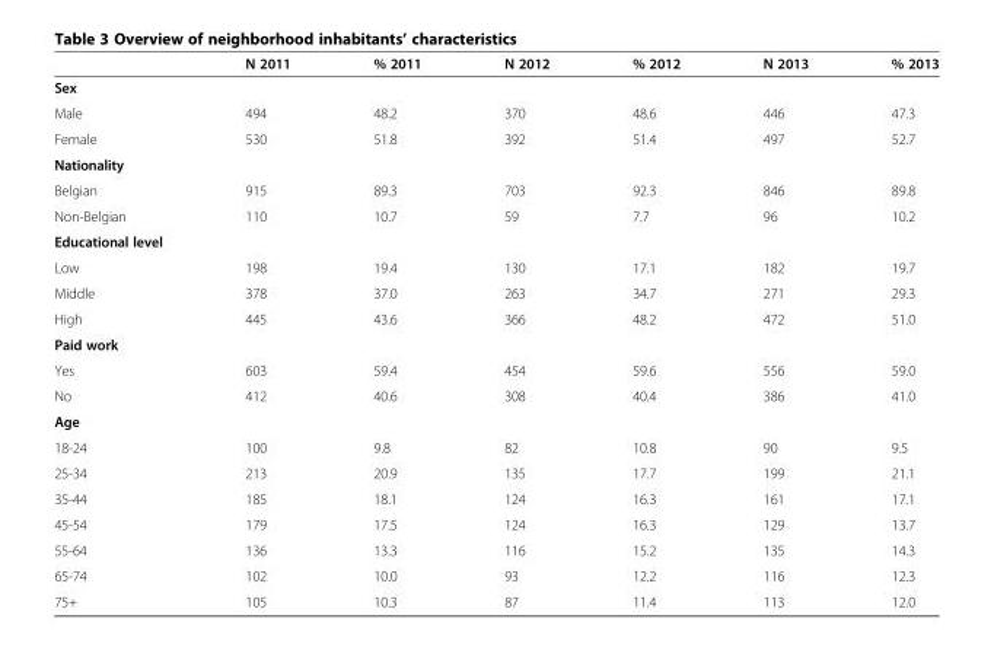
<table><thead><tr><td></td><td>N 2011</td><td>% 2011</td><td>N 2012</td><td>% 2012</td><td>N 2013</td><td>% 2013</td></tr></thead><tbody><tr><td colspan="7">Sex</td></tr><tr><td>Male</td><td>494</td><td>48.2</td><td>370</td><td>48.6</td><td>446</td><td>47.3</td></tr><tr><td>Female</td><td>530</td><td>51.8</td><td>392</td><td>51.4</td><td>497</td><td>52.7</td></tr><tr><td colspan="7">Nationality</td></tr><tr><td>Belgian</td><td>915</td><td>89.3</td><td>703</td><td>92.3</td><td>846</td><td>89.8</td></tr><tr><td>Non-Belgian</td><td>110</td><td>10.7</td><td>59</td><td>7.7</td><td>96</td><td>10.2</td></tr><tr><td colspan="7">Educational level</td></tr><tr><td>Low</td><td>198</td><td>19.4</td><td>130</td><td>17.1</td><td>182</td><td>19.7</td></tr><tr><td>Middle</td><td>378</td><td>37.0</td><td>263</td><td>34.7</td><td>271</td><td>29.3</td></tr><tr><td>High</td><td>445</td><td>43.6</td><td>366</td><td>48.2</td><td>472</td><td>51.0</td></tr><tr><td colspan="7">Paid work</td></tr><tr><td>Yes</td><td>603</td><td>59.4</td><td>454</td><td>59.6</td><td>556</td><td>59.0</td></tr><tr><td>No</td><td>412</td><td>40.6</td><td>308</td><td>40.4</td><td>386</td><td>41.0</td></tr><tr><td colspan="7">Age</td></tr><tr><td>18-24</td><td>100</td><td>9.8</td><td>82</td><td>10.8</td><td>90</td><td>9.5</td></tr><tr><td>25-34</td><td>213</td><td>20.9</td><td>135</td><td>17.7</td><td>199</td><td>21.1</td></tr><tr><td>35-44</td><td>185</td><td>18.1</td><td>124</td><td>16.3</td><td>161</td><td>17.1</td></tr><tr><td>45-54</td><td>179</td><td>17.5</td><td>124</td><td>16.3</td><td>129</td><td>13.7</td></tr><tr><td>55-64</td><td>136</td><td>13.3</td><td>116</td><td>15.2</td><td>135</td><td>14.3</td></tr><tr><td>65-74</td><td>102</td><td>10.0</td><td>93</td><td>12.2</td><td>116</td><td>12.3</td></tr><tr><td>75+</td><td>105</td><td>10.3</td><td>87</td><td>11.4</td><td>113</td><td>12.0</td></tr></tbody></table>